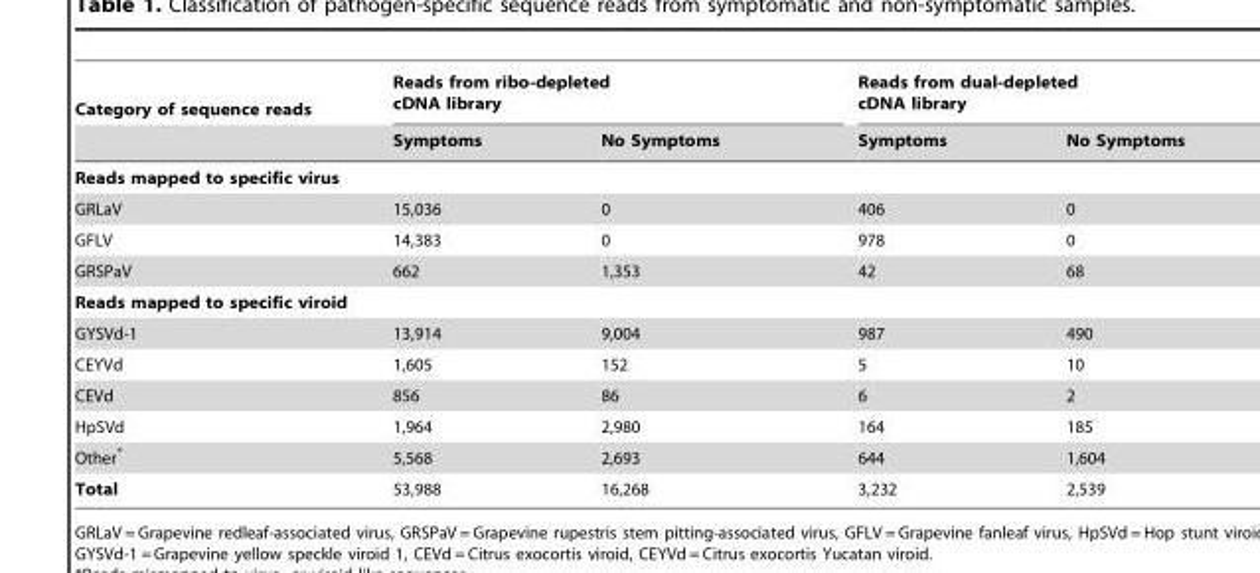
<table><thead><tr><td rowspan="2">Category of sequence reads</td><td colspan="2">Reads from ribo-depleted cDNA library</td><td colspan="2">Reads from dual-depleted cDNA library</td></tr><tr><td>Symptoms</td><td>No Symptoms</td><td>Symptoms</td><td>No Symptoms</td></tr></thead><tbody><tr><td colspan="5">Reads mapped to specific virus</td></tr><tr><td>GRLaV</td><td>15,036</td><td>0</td><td>406</td><td>0</td></tr><tr><td>GFLV</td><td>14,383</td><td>0</td><td>978</td><td>0</td></tr><tr><td>GRSPaV</td><td>662</td><td>1,353</td><td>42</td><td>68</td></tr><tr><td colspan="5">Reads mapped to specific viroid</td></tr><tr><td>GYSVd-1</td><td>13,914</td><td>9,004</td><td>987</td><td>490</td></tr><tr><td>CEYVd</td><td>1,605</td><td>152</td><td>5</td><td>10</td></tr><tr><td>CEVd</td><td>856</td><td>86</td><td>6</td><td>2</td></tr><tr><td>HpSVd</td><td>1,964</td><td>2,980</td><td>164</td><td>185</td></tr><tr><td>Other*</td><td>5,568</td><td>2,693</td><td>644</td><td>1,604</td></tr><tr><td>Total</td><td>53,988</td><td>16,268</td><td>3,232</td><td>2,539</td></tr></tbody></table>